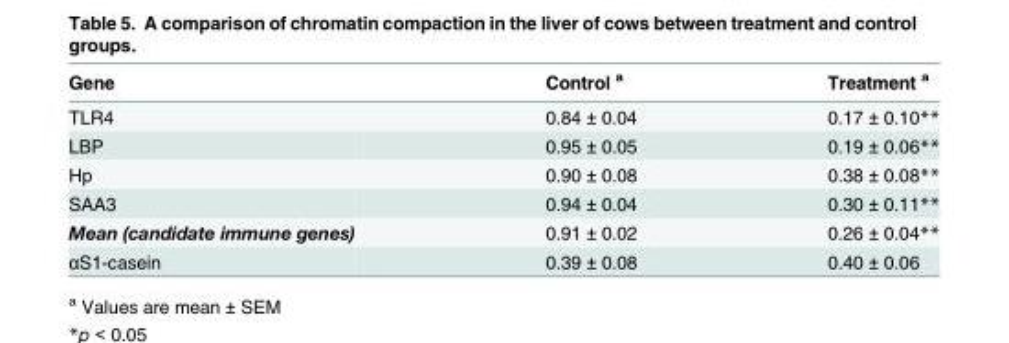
<table><thead><tr><td>Gene</td><td>Control <sup>a</sup></td><td>Treatment <sup>a</sup></td></tr></thead><tbody><tr><td>TLR4</td><td>0.84 ± 0.04</td><td>0.17 ± 0.10**</td></tr><tr><td>LBP</td><td>0.95 ± 0.05</td><td>0.19 ± 0.06**</td></tr><tr><td>Hp</td><td>0.90 ± 0.08</td><td>0.38 ± 0.08**</td></tr><tr><td>SAA3</td><td>0.94 ± 0.04</td><td>0.30 ± 0.11**</td></tr><tr><td>Mean (candidate immune genes)</td><td>0.91 ± 0.02</td><td>0.26 ± 0.04**</td></tr><tr><td>αS1-casein</td><td>0.39 ± 0.08</td><td>0.40 ± 0.06</td></tr></tbody></table>